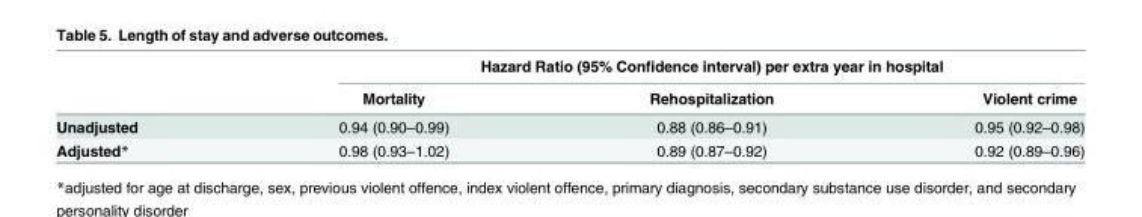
<table><thead><tr><td rowspan="2"></td><td colspan="3">Hazard Ratio (95% Confidence interval) per extra year in hospital</td></tr><tr><td>Mortality</td><td>Rehospitalization</td><td>Violent crime</td></tr></thead><tbody><tr><td>Unadjusted</td><td>0.94 (0.90–0.99)</td><td>0.88 (0.86–0.91)</td><td>0.95 (0.92–0.98)</td></tr><tr><td>Adjusted*</td><td>0.98 (0.93–1.02)</td><td>0.89 (0.87–0.92)</td><td>0.92 (0.89–0.96)</td></tr></tbody></table>